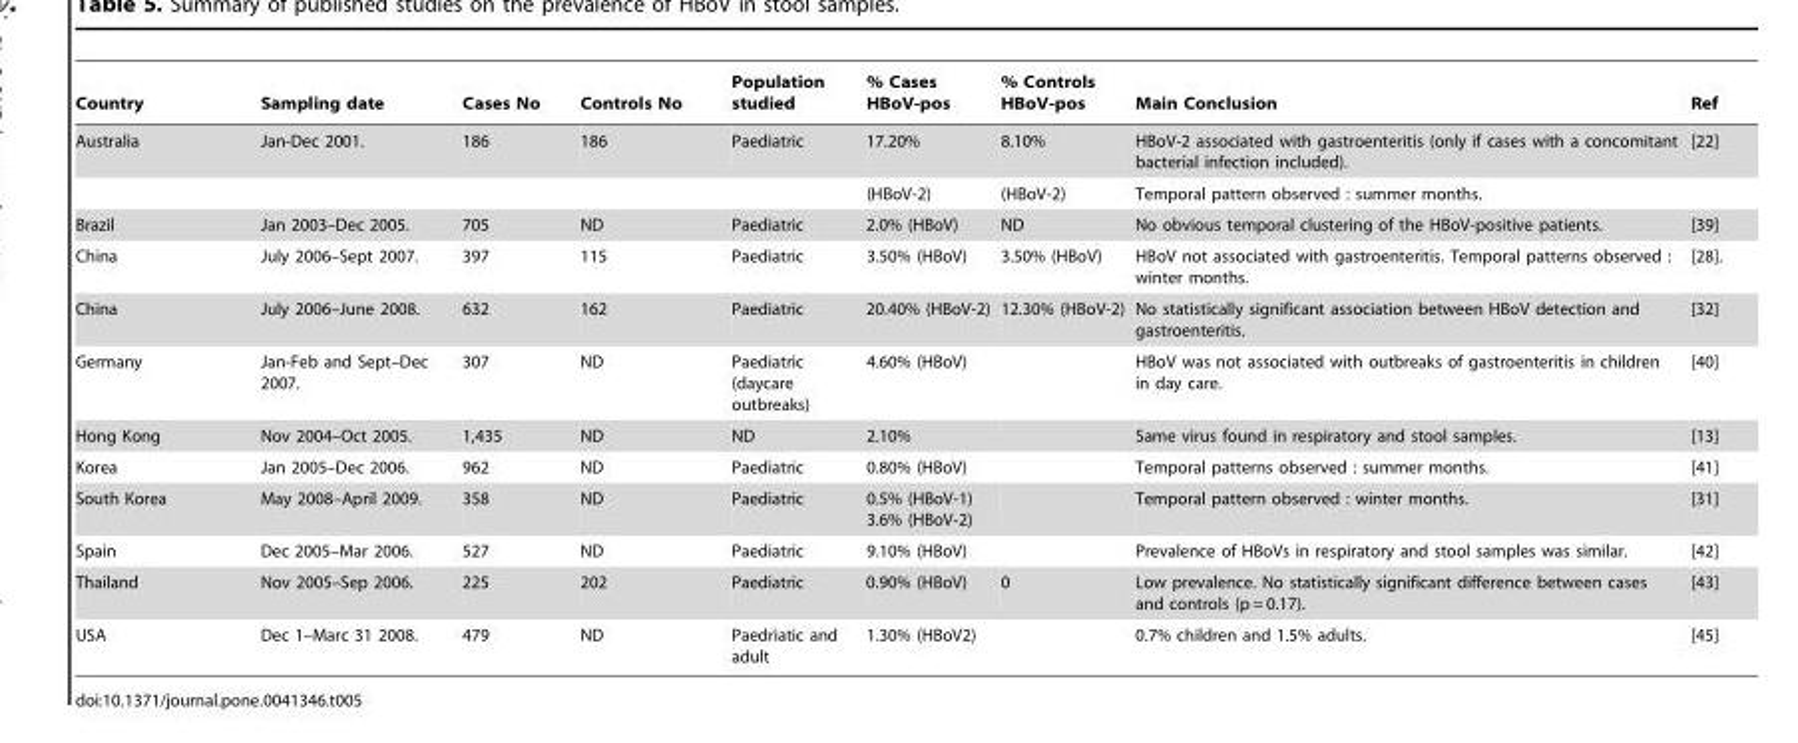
<table><thead><tr><td>Country</td><td>Sampling date</td><td>Cases No</td><td>Controls No</td><td>Population studied</td><td>% Cases HBoV-pos</td><td>% Controls HBoV-pos</td><td>Main Conclusion</td><td>Ref</td></tr></thead><tbody><tr><td rowspan="2">Australia</td><td>Jan-Dec 2001.</td><td>186</td><td>186</td><td>Paediatric</td><td>17.20%</td><td>8.10%</td><td>HBoV-2 associated with gastroenteritis (only if cases with a concomitant bacterial infection included).</td><td>[22]</td></tr><tr><td></td><td></td><td></td><td></td><td>(HBoV-2)</td><td>(HBoV-2)</td><td>Temporal pattern observed : summer months.</td><td></td></tr><tr><td>Brazil</td><td>Jan 2003–Dec 2005.</td><td>705</td><td>ND</td><td>Paediatric</td><td>2.0% (HBoV)</td><td>ND</td><td>No obvious temporal clustering of the HBoV-positive patients.</td><td>[39]</td></tr><tr><td>China</td><td>July 2006–Sept 2007.</td><td>397</td><td>115</td><td>Paediatric</td><td>3.50% (HBoV)</td><td>3.50% (HBoV)</td><td>HBoV not associated with gastroenteritis. Temporal patterns observed : winter months.</td><td>[28].</td></tr><tr><td>China</td><td>July 2006–June 2008.</td><td>632</td><td>162</td><td>Paediatric</td><td>20.40% (HBoV-2)</td><td>12.30% (HBoV-2)</td><td>No statistically significant association between HBoV detection and gastroenteritis.</td><td>[32]</td></tr><tr><td>Germany</td><td>Jan-Feb and Sept–Dec 2007.</td><td>307</td><td>ND</td><td>Paediatric (daycare outbreaks)</td><td>4.60% (HBoV)</td><td></td><td>HBoV was not associated with outbreaks of gastroenteritis in children in day care.</td><td>[40]</td></tr><tr><td>Hong Kong</td><td>Nov 2004–Oct 2005.</td><td>1,435</td><td>ND</td><td>ND</td><td>2.10%</td><td></td><td>Same virus found in respiratory and stool samples.</td><td>[13]</td></tr><tr><td>Korea</td><td>Jan 2005–Dec 2006.</td><td>962</td><td>ND</td><td>Paediatric</td><td>0.80% (HBoV)</td><td></td><td>Temporal patterns observed : summer months.</td><td>[41]</td></tr><tr><td>South Korea</td><td>May 2008–April 2009.</td><td>358</td><td>ND</td><td>Paediatric</td><td>0.5% (HBoV-1) 3.6% (HBoV-2)</td><td></td><td>Temporal pattern observed : winter months.</td><td>[31]</td></tr><tr><td>Spain</td><td>Dec 2005–Mar 2006.</td><td>527</td><td>ND</td><td>Paediatric</td><td>9.10% (HBoV)</td><td></td><td>Prevalence of HBoVs in respiratory and stool samples was similar.</td><td>[42]</td></tr><tr><td>Thailand</td><td>Nov 2005–Sep 2006.</td><td>225</td><td>202</td><td>Paediatric</td><td>0.90% (HBoV)</td><td>0</td><td>Low prevalence. No statistically significant difference between cases and controls (p = 0.17).</td><td>[43]</td></tr><tr><td>USA</td><td>Dec 1–Marc 31 2008.</td><td>479</td><td>ND</td><td>Paedriatic and adult</td><td>1.30% (HBoV2)</td><td></td><td>0.7% children and 1.5% adults.</td><td>[45]</td></tr></tbody></table>